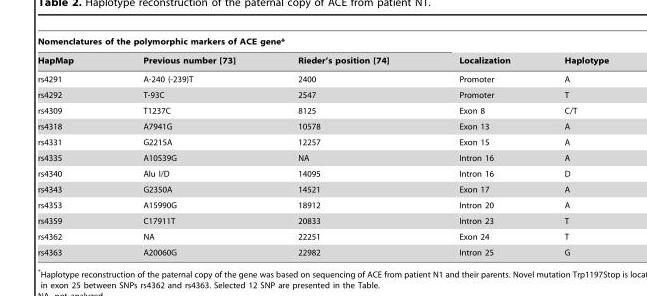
<table><thead><tr><td colspan="3">Nomenclatures of the polymorphic markers of ACE gene*</td><td rowspan="2">Localization</td><td rowspan="2">Haplotype</td></tr><tr><td>HapMap</td><td>Previous number [73]</td><td>Rieder’s position [74]</td></tr></thead><tbody><tr><td>rs4291</td><td>A-240 (-239)T</td><td>2400</td><td>Promoter</td><td>A</td></tr><tr><td>rs4292</td><td>T-93C</td><td>2547</td><td>Promoter</td><td>T</td></tr><tr><td>rs4309</td><td>T1237C</td><td>8125</td><td>Exon 8</td><td>C/T</td></tr><tr><td>rs4318</td><td>A7941G</td><td>10578</td><td>Exon 13</td><td>A</td></tr><tr><td>rs4331</td><td>G2215A</td><td>12257</td><td>Exon 15</td><td>A</td></tr><tr><td>rs4335</td><td>A10539G</td><td>NA</td><td>Intron 16</td><td>A</td></tr><tr><td>rs4340</td><td>Alu I/D</td><td>14095</td><td>Intron 16</td><td>D</td></tr><tr><td>rs4343</td><td>G2350A</td><td>14521</td><td>Exon 17</td><td>A</td></tr><tr><td>rs4353</td><td>A15990G</td><td>18912</td><td>Intron 20</td><td>A</td></tr><tr><td>rs4359</td><td>C17911T</td><td>20833</td><td>Intron 23</td><td>T</td></tr><tr><td>rs4362</td><td>NA</td><td>22251</td><td>Exon 24</td><td>T</td></tr><tr><td>rs4363</td><td>A20060G</td><td>22982</td><td>Intron 25</td><td>G</td></tr></tbody></table>